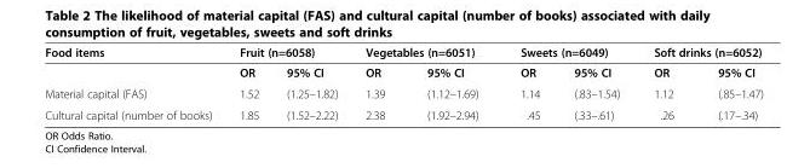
<table><thead><tr><td rowspan="2">Food items</td><td colspan="2">Fruit (n=6058)</td><td colspan="2">Vegetables (n=6051)</td><td colspan="2">Sweets (n=6049)</td><td colspan="2">Soft drinks (n=6052)</td></tr><tr><td>OR</td><td>95% CI</td><td>OR</td><td>95% CI</td><td>OR</td><td>95% CI</td><td>OR</td><td>95% CI</td></tr></thead><tbody><tr><td>Material capital (FAS)</td><td>1.52</td><td>(1.25–1.82)</td><td>1.39</td><td>(1.12–1.69)</td><td>1.14</td><td>(.83–1.54)</td><td>1.12</td><td>(.85–1.47)</td></tr><tr><td>Cultural capital (number of books)</td><td>1.85</td><td>(1.52–2.22)</td><td>2.38</td><td>(1.92–2.94)</td><td>.45</td><td>(.33–.61)</td><td>.26</td><td>(.17–.34)</td></tr></tbody></table>